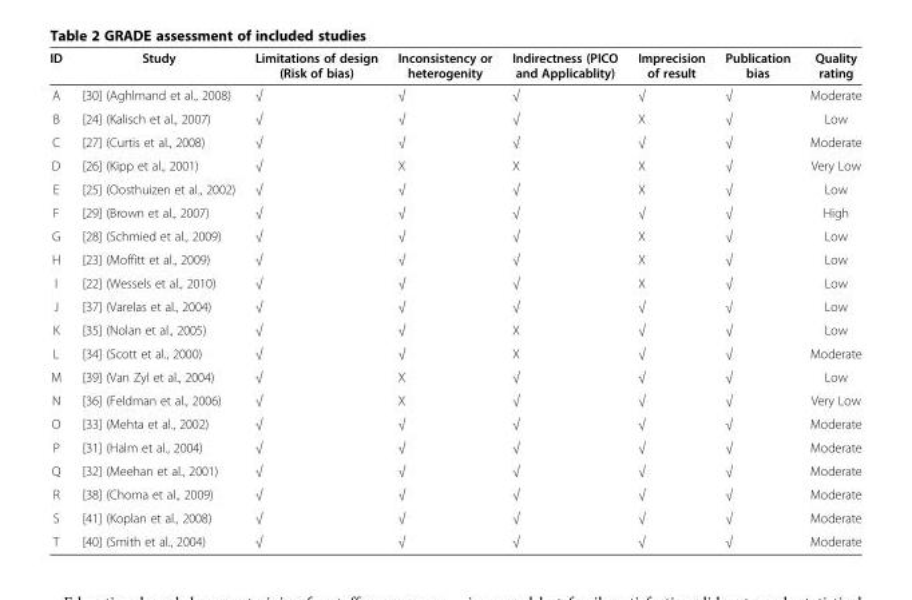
<table><thead><tr><td>ID</td><td>Study</td><td>Limitations of design (Risk of bias)</td><td>Inconsistency or heterogenity</td><td>Indirectness (PICO and Applicablity)</td><td>Imprecision of result</td><td>Publication bias</td><td>Quality rating</td></tr></thead><tbody><tr><td>A</td><td>[30] (Aghlmand et al., 2008)</td><td>√</td><td>√</td><td>√</td><td>√</td><td>√</td><td>Moderate</td></tr><tr><td>B</td><td>[24] (Kalisch et al., 2007)</td><td>√</td><td>√</td><td>√</td><td>X</td><td>√</td><td>Low</td></tr><tr><td>C</td><td>[27] (Curtis et al., 2008)</td><td>√</td><td>√</td><td>√</td><td>√</td><td>√</td><td>Moderate</td></tr><tr><td>D</td><td>[26] (Kipp et al., 2001)</td><td>√</td><td>X</td><td>X</td><td>X</td><td>√</td><td>Very Low</td></tr><tr><td>E</td><td>[25] (Oosthuizen et al., 2002)</td><td>√</td><td>√</td><td>√</td><td>X</td><td>√</td><td>Low</td></tr><tr><td>F</td><td>[29] (Brown et al., 2007)</td><td>√</td><td>√</td><td>√</td><td>√</td><td>√</td><td>High</td></tr><tr><td>G</td><td>[28] (Schmied et al., 2009)</td><td>√</td><td>√</td><td>√</td><td>X</td><td>√</td><td>Low</td></tr><tr><td>H</td><td>[23] (Moffitt et al., 2009)</td><td>√</td><td>√</td><td>√</td><td>X</td><td>√</td><td>Low</td></tr><tr><td>I</td><td>[22] (Wessels et al., 2010)</td><td>√</td><td>√</td><td>√</td><td>X</td><td>√</td><td>Low</td></tr><tr><td>J</td><td>[37] (Varelas et al., 2004)</td><td>√</td><td>√</td><td>√</td><td>√</td><td>√</td><td>Low</td></tr><tr><td>K</td><td>[35] (Nolan et al., 2005)</td><td>√</td><td>√</td><td>X</td><td>√</td><td>√</td><td>Low</td></tr><tr><td>L</td><td>[34] (Scott et al., 2000)</td><td>√</td><td>√</td><td>X</td><td>√</td><td>√</td><td>Moderate</td></tr><tr><td>M</td><td>[39] (Van Zyl et al., 2004)</td><td>√</td><td>X</td><td>√</td><td>√</td><td>√</td><td>Low</td></tr><tr><td>N</td><td>[36] (Feldman et al., 2006)</td><td>√</td><td>X</td><td>√</td><td>√</td><td>√</td><td>Very Low</td></tr><tr><td>O</td><td>[33] (Mehta et al., 2002)</td><td>√</td><td>√</td><td>√</td><td>√</td><td>√</td><td>Moderate</td></tr><tr><td>P</td><td>[31] (Halm et al., 2004)</td><td>√</td><td>√</td><td>√</td><td>√</td><td>√</td><td>Moderate</td></tr><tr><td>Q</td><td>[32] (Meehan et al., 2001)</td><td>√</td><td>√</td><td>√</td><td>√</td><td>√</td><td>Moderate</td></tr><tr><td>R</td><td>[38] (Choma et al., 2009)</td><td>√</td><td>√</td><td>√</td><td>√</td><td>√</td><td>Moderate</td></tr><tr><td>S</td><td>[41] (Koplan et al., 2008)</td><td>√</td><td>√</td><td>√</td><td>√</td><td>√</td><td>Moderate</td></tr><tr><td>T</td><td>[40] (Smith et al., 2004)</td><td>√</td><td>√</td><td>√</td><td>√</td><td>√</td><td>Moderate</td></tr></tbody></table>